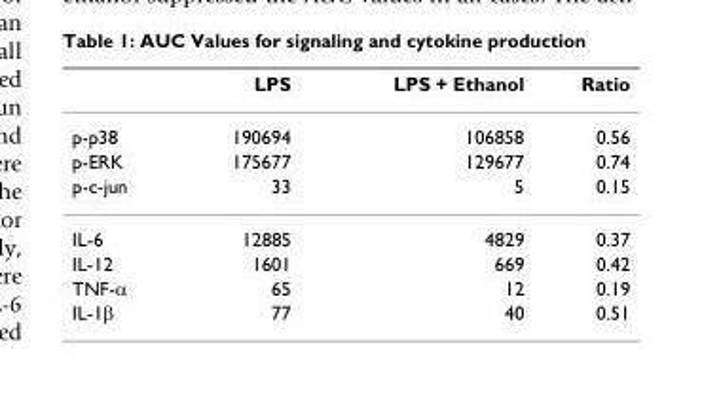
<table><thead><tr><td></td><td>LPS</td><td>LPS + Ethanol</td><td>Ratio</td></tr></thead><tbody><tr><td>p-p38</td><td>190694</td><td>106858</td><td>0.56</td></tr><tr><td>p-ERK</td><td>175677</td><td>129677</td><td>0.74</td></tr><tr><td>p-c-jun</td><td>33</td><td>5</td><td>0.15</td></tr><tr><td>IL-6</td><td>12885</td><td>4829</td><td>0.37</td></tr><tr><td>IL-12</td><td>1601</td><td>669</td><td>0.42</td></tr><tr><td>TNF-α</td><td>65</td><td>12</td><td>0.19</td></tr><tr><td>IL-1β</td><td>77</td><td>40</td><td>0.51</td></tr></tbody></table>